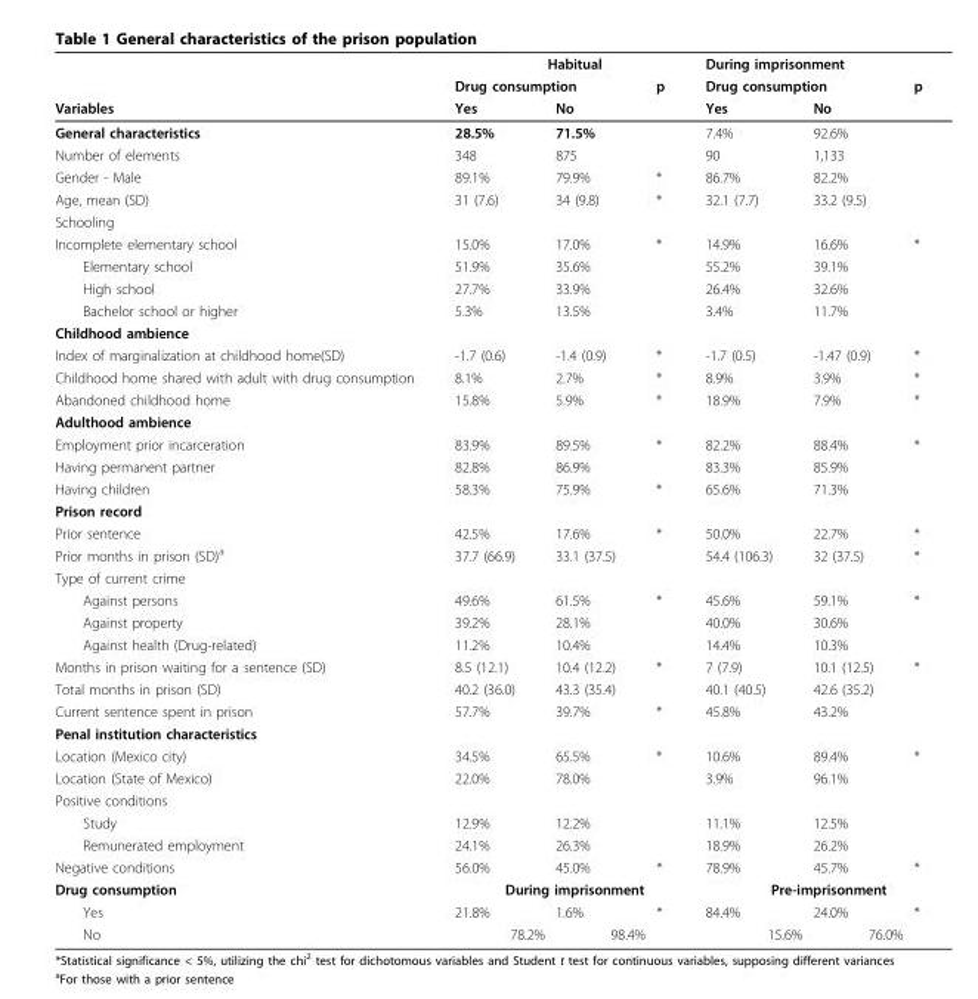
<table><thead><tr><td rowspan="3">Variables</td><td colspan="3">Habitual</td><td colspan="3">During imprisonment</td></tr><tr><td colspan="2">Drug consumption</td><td rowspan="2">p</td><td colspan="2">Drug consumption</td><td rowspan="2">p</td></tr><tr><td>Yes</td><td>No</td><td>Yes</td><td>No</td></tr></thead><tbody><tr><td>General characteristics</td><td>28.5%</td><td>71.5%</td><td></td><td>7.4%</td><td>92.6%</td><td></td></tr><tr><td>Number of elements</td><td>348</td><td>875</td><td></td><td>90</td><td>1,133</td><td></td></tr><tr><td>Gender - Male</td><td>89.1%</td><td>79.9%</td><td>*</td><td>86.7%</td><td>82.2%</td><td></td></tr><tr><td>Age, mean (SD)</td><td>31 (7.6)</td><td>34 (9.8)</td><td>*</td><td>32.1 (7.7)</td><td>33.2 (9.5)</td><td></td></tr><tr><td colspan="7">Schooling</td></tr><tr><td>Incomplete elementary school</td><td>15.0%</td><td>17.0%</td><td>*</td><td>14.9%</td><td>16.6%</td><td>*</td></tr><tr><td>Elementary school</td><td>51.9%</td><td>35.6%</td><td></td><td>55.2%</td><td>39.1%</td><td></td></tr><tr><td>High school</td><td>27.7%</td><td>33.9%</td><td></td><td>26.4%</td><td>32.6%</td><td></td></tr><tr><td>Bachelor school or higher</td><td>5.3%</td><td>13.5%</td><td></td><td>3.4%</td><td>11.7%</td><td></td></tr><tr><td colspan="7">Childhood ambience</td></tr><tr><td>Index of marginalization at childhood home(SD)</td><td>-1.7 (0.6)</td><td>-1.4 (0.9)</td><td>*</td><td>-1.7 (0.5)</td><td>-1.47 (0.9)</td><td>*</td></tr><tr><td>Childhood home shared with adult with drug consumption</td><td>8.1%</td><td>2.7%</td><td>*</td><td>8.9%</td><td>3.9%</td><td>*</td></tr><tr><td>Abandoned childhood home</td><td>15.8%</td><td>5.9%</td><td>*</td><td>18.9%</td><td>7.9%</td><td>*</td></tr><tr><td colspan="7">Adulthood ambience</td></tr><tr><td>Employment prior incarceration</td><td>83.9%</td><td>89.5%</td><td>*</td><td>82.2%</td><td>88.4%</td><td>*</td></tr><tr><td>Having permanent partner</td><td>82.8%</td><td>86.9%</td><td></td><td>83.3%</td><td>85.9%</td><td></td></tr><tr><td>Having children</td><td>58.3%</td><td>75.9%</td><td>*</td><td>65.6%</td><td>71.3%</td><td></td></tr><tr><td colspan="7">Prison record</td></tr><tr><td>Prior sentence</td><td>42.5%</td><td>17.6%</td><td>*</td><td>50.0%</td><td>22.7%</td><td>*</td></tr><tr><td>Prior months in prison (SD)<sup>a</sup></td><td>37.7 (66.9)</td><td>33.1 (37.5)</td><td></td><td>54.4 (106.3)</td><td>32 (37.5)</td><td>*</td></tr><tr><td colspan="7">Type of current crime</td></tr><tr><td>Against persons</td><td>49.6%</td><td>61.5%</td><td>*</td><td>45.6%</td><td>59.1%</td><td>*</td></tr><tr><td>Against property</td><td>39.2%</td><td>28.1%</td><td></td><td>40.0%</td><td>30.6%</td><td></td></tr><tr><td>Against health (Drug-related)</td><td>11.2%</td><td>10.4%</td><td></td><td>14.4%</td><td>10.3%</td><td></td></tr><tr><td>Months in prison waiting for a sentence (SD)</td><td>8.5 (12.1)</td><td>10.4 (12.2)</td><td>*</td><td>7 (7.9)</td><td>10.1 (12.5)</td><td>*</td></tr><tr><td>Total months in prison (SD)</td><td>40.2 (36.0)</td><td>43.3 (35.4)</td><td></td><td>40.1 (40.5)</td><td>42.6 (35.2)</td><td></td></tr><tr><td>Current sentence spent in prison</td><td>57.7%</td><td>39.7%</td><td>*</td><td>45.8%</td><td>43.2%</td><td></td></tr><tr><td colspan="7">Penal institution characteristics</td></tr><tr><td>Location (Mexico city)</td><td>34.5%</td><td>65.5%</td><td>*</td><td>10.6%</td><td>89.4%</td><td>*</td></tr><tr><td>Location (State of Mexico)</td><td>22.0%</td><td>78.0%</td><td></td><td>3.9%</td><td>96.1%</td><td></td></tr><tr><td colspan="7">Positive conditions</td></tr><tr><td>Study</td><td>12.9%</td><td>12.2%</td><td></td><td>11.1%</td><td>12.5%</td><td></td></tr><tr><td>Remunerated employment</td><td>24.1%</td><td>26.3%</td><td></td><td>18.9%</td><td>26.2%</td><td></td></tr><tr><td>Negative conditions</td><td>56.0%</td><td>45.0%</td><td>*</td><td>78.9%</td><td>45.7%</td><td>*</td></tr><tr><td>Drug consumption</td><td colspan="3">During imprisonment</td><td colspan="3">Pre-imprisonment</td></tr><tr><td>Yes</td><td>21.8%</td><td>1.6%</td><td>*</td><td>84.4%</td><td>24.0%</td><td>*</td></tr><tr><td>No</td><td>78.2%</td><td>98.4%</td><td></td><td>15.6%</td><td>76.0%</td><td></td></tr></tbody></table>